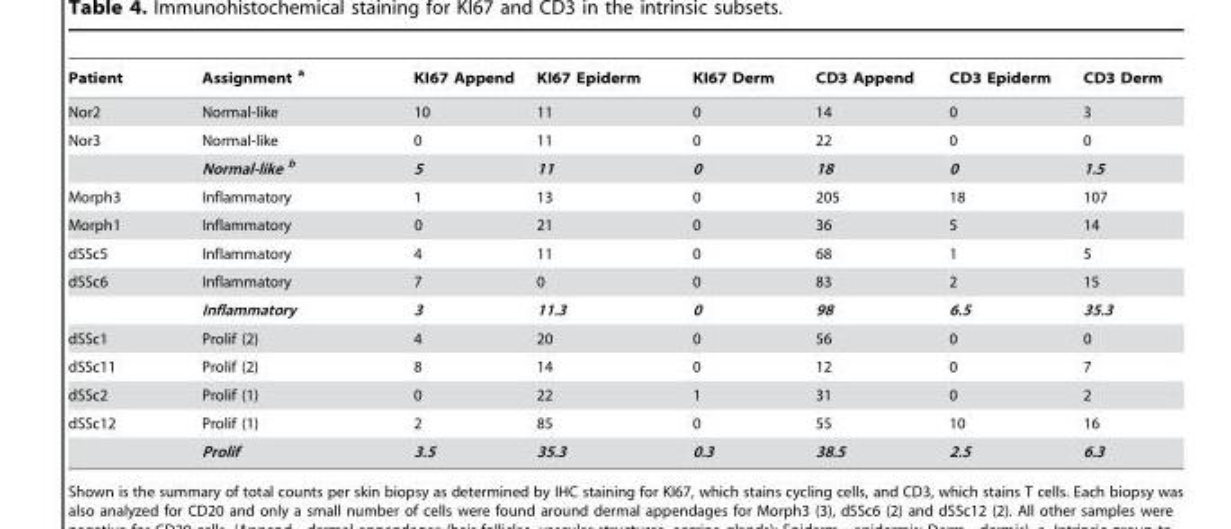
<table><thead><tr><td>Patient</td><td>Assignment <sup>a</sup></td><td>KI67 Append</td><td>KI67 Epiderm</td><td>KI67 Derm</td><td>CD3 Append</td><td>CD3 Epiderm</td><td>CD3 Derm</td></tr></thead><tbody><tr><td>Nor2</td><td>Normal-like</td><td>10</td><td>11</td><td>0</td><td>14</td><td>0</td><td>3</td></tr><tr><td rowspan="2">Nor3</td><td>Normal-like</td><td>0</td><td>11</td><td>0</td><td>22</td><td>0</td><td>0</td></tr><tr><td>Normal-like <sup>b</sup></td><td>5</td><td>11</td><td>0</td><td>18</td><td>0</td><td>1.5</td></tr><tr><td>Morph3</td><td>Inflammatory</td><td>1</td><td>13</td><td>0</td><td>205</td><td>18</td><td>107</td></tr><tr><td>Morph1</td><td>Inflammatory</td><td>0</td><td>21</td><td>0</td><td>36</td><td>5</td><td>14</td></tr><tr><td>dSSc5</td><td>Inflammatory</td><td>4</td><td>11</td><td>0</td><td>68</td><td>1</td><td>5</td></tr><tr><td rowspan="2">dSSc6</td><td>Inflammatory</td><td>7</td><td>0</td><td>0</td><td>83</td><td>2</td><td>15</td></tr><tr><td>Inflammatory</td><td>3</td><td>11.3</td><td>0</td><td>98</td><td>6.5</td><td>35.3</td></tr><tr><td>dSSc1</td><td>Prolif (2)</td><td>4</td><td>20</td><td>0</td><td>56</td><td>0</td><td>0</td></tr><tr><td>dSSc11</td><td>Prolif (2)</td><td>8</td><td>14</td><td>0</td><td>12</td><td>0</td><td>7</td></tr><tr><td>dSSc2</td><td>Prolif (1)</td><td>0</td><td>22</td><td>1</td><td>31</td><td>0</td><td>2</td></tr><tr><td rowspan="2">dSSc12</td><td>Prolif (1)</td><td>2</td><td>85</td><td>0</td><td>55</td><td>10</td><td>16</td></tr><tr><td>Prolif</td><td>3.5</td><td>35.3</td><td>0.3</td><td>38.5</td><td>2.5</td><td>6.3</td></tr></tbody></table>